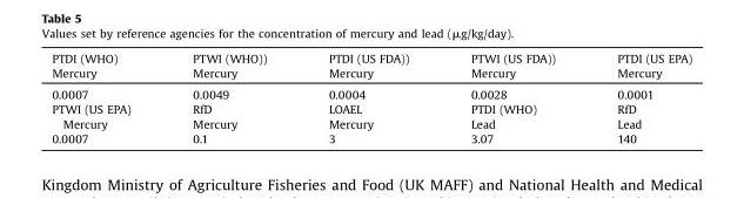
<table><thead><tr><td>PTDI (WHO) Mercury</td><td>PTWI (WHO)) Mercury</td><td>PTDI (US FDA)) Mercury</td><td>PTWI (US FDA)) Mercury</td><td>PTDI (US EPA) Mercury</td></tr></thead><tbody><tr><td>0.0007</td><td>0.0049</td><td>0.0004</td><td>0.0028</td><td>0.0001</td></tr><tr><td>PTWI (US EPA) Mercury</td><td>RfD Mercury</td><td>LOAEL Mercury</td><td>PTDI (WHO) Lead</td><td>RfD Lead</td></tr><tr><td>0.0007</td><td>0.1</td><td>3</td><td>3.07</td><td>140</td></tr></tbody></table>